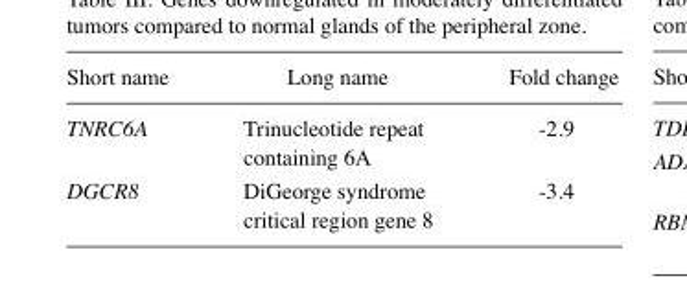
<table><thead><tr><td>Short name</td><td>Long name</td><td>Fold change</td></tr></thead><tbody><tr><td>TNRC6A</td><td>Trinucleotide repeat containing 6A</td><td>-2.9</td></tr><tr><td>DGCR8</td><td>DiGeorge syndrome critical region gene 8</td><td>-3.4</td></tr></tbody></table>